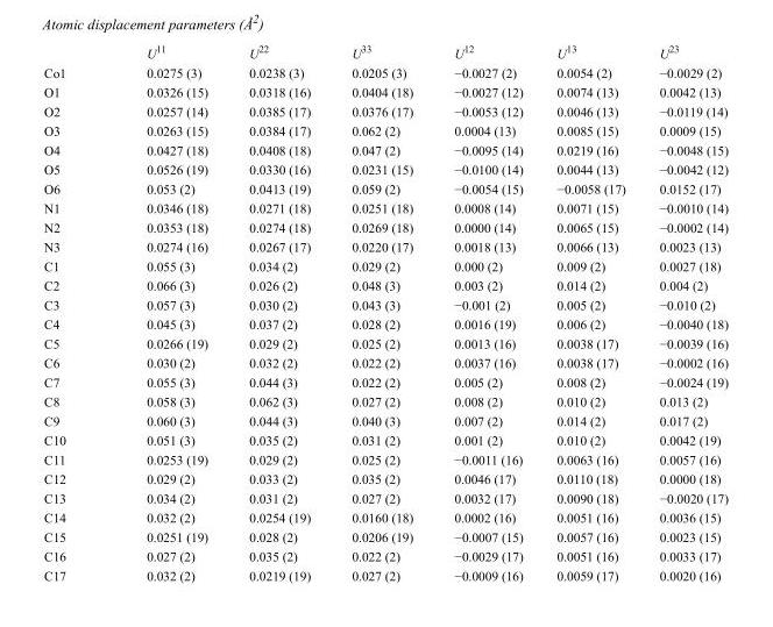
<table><thead><tr><td></td><td>U<sup>11</sup></td><td>U<sup>22</sup></td><td>U<sup>33</sup></td><td>U<sup>12</sup></td><td>U<sup>13</sup></td><td>U<sup>23</sup></td></tr></thead><tbody><tr><td>Co1</td><td>0.0275 (3)</td><td>0.0238 (3)</td><td>0.0205 (3)</td><td>−0.0027 (2)</td><td>0.0054 (2)</td><td>−0.0029 (2)</td></tr><tr><td>O1</td><td>0.0326 (15)</td><td>0.0318 (16)</td><td>0.0404 (18)</td><td>−0.0027 (12)</td><td>0.0074 (13)</td><td>0.0042 (13)</td></tr><tr><td>O2</td><td>0.0257 (14)</td><td>0.0385 (17)</td><td>0.0376 (17)</td><td>−0.0053 (12)</td><td>0.0046 (13)</td><td>−0.0119 (14)</td></tr><tr><td>O3</td><td>0.0263 (15)</td><td>0.0384 (17)</td><td>0.062 (2)</td><td>0.0004 (13)</td><td>0.0085 (15)</td><td>0.0009 (15)</td></tr><tr><td>O4</td><td>0.0427 (18)</td><td>0.0408 (18)</td><td>0.047 (2)</td><td>−0.0095 (14)</td><td>0.0219 (16)</td><td>−0.0048 (15)</td></tr><tr><td>O5</td><td>0.0526 (19)</td><td>0.0330 (16)</td><td>0.0231 (15)</td><td>−0.0100 (14)</td><td>0.0044 (13)</td><td>−0.0042 (12)</td></tr><tr><td>O6</td><td>0.053 (2)</td><td>0.0413 (19)</td><td>0.059 (2)</td><td>−0.0054 (15)</td><td>−0.0058 (17)</td><td>0.0152 (17)</td></tr><tr><td>N1</td><td>0.0346 (18)</td><td>0.0271 (18)</td><td>0.0251 (18)</td><td>0.0008 (14)</td><td>0.0071 (15)</td><td>−0.0010 (14)</td></tr><tr><td>N2</td><td>0.0353 (18)</td><td>0.0274 (18)</td><td>0.0269 (18)</td><td>0.0000 (14)</td><td>0.0065 (15)</td><td>−0.0002 (14)</td></tr><tr><td>N3</td><td>0.0274 (16)</td><td>0.0267 (17)</td><td>0.0220 (17)</td><td>0.0018 (13)</td><td>0.0066 (13)</td><td>0.0023 (13)</td></tr><tr><td>C1</td><td>0.055 (3)</td><td>0.034 (2)</td><td>0.029 (2)</td><td>0.000 (2)</td><td>0.009 (2)</td><td>0.0027 (18)</td></tr><tr><td>C2</td><td>0.066 (3)</td><td>0.026 (2)</td><td>0.048 (3)</td><td>0.003 (2)</td><td>0.014 (2)</td><td>0.004 (2)</td></tr><tr><td>C3</td><td>0.057 (3)</td><td>0.030 (2)</td><td>0.043 (3)</td><td>−0.001 (2)</td><td>0.005 (2)</td><td>−0.010 (2)</td></tr><tr><td>C4</td><td>0.045 (3)</td><td>0.037 (2)</td><td>0.028 (2)</td><td>0.0016 (19)</td><td>0.006 (2)</td><td>−0.0040 (18)</td></tr><tr><td>C5</td><td>0.0266 (19)</td><td>0.029 (2)</td><td>0.025 (2)</td><td>0.0013 (16)</td><td>0.0038 (17)</td><td>−0.0039 (16)</td></tr><tr><td>C6</td><td>0.030 (2)</td><td>0.032 (2)</td><td>0.022 (2)</td><td>0.0037 (16)</td><td>0.0038 (17)</td><td>−0.0002 (16)</td></tr><tr><td>C7</td><td>0.055 (3)</td><td>0.044 (3)</td><td>0.022 (2)</td><td>0.005 (2)</td><td>0.008 (2)</td><td>−0.0024 (19)</td></tr><tr><td>C8</td><td>0.058 (3)</td><td>0.062 (3)</td><td>0.027 (2)</td><td>0.008 (2)</td><td>0.010 (2)</td><td>0.013 (2)</td></tr><tr><td>C9</td><td>0.060 (3)</td><td>0.044 (3)</td><td>0.040 (3)</td><td>0.007 (2)</td><td>0.014 (2)</td><td>0.017 (2)</td></tr><tr><td>C10</td><td>0.051 (3)</td><td>0.035 (2)</td><td>0.031 (2)</td><td>0.001 (2)</td><td>0.010 (2)</td><td>0.0042 (19)</td></tr><tr><td>C11</td><td>0.0253 (19)</td><td>0.029 (2)</td><td>0.025 (2)</td><td>−0.0011 (16)</td><td>0.0063 (16)</td><td>0.0057 (16)</td></tr><tr><td>C12</td><td>0.029 (2)</td><td>0.033 (2)</td><td>0.035 (2)</td><td>0.0046 (17)</td><td>0.0110 (18)</td><td>0.0000 (18)</td></tr><tr><td>C13</td><td>0.034 (2)</td><td>0.031 (2)</td><td>0.027 (2)</td><td>0.0032 (17)</td><td>0.0090 (18)</td><td>−0.0020 (17)</td></tr><tr><td>C14</td><td>0.032 (2)</td><td>0.0254 (19)</td><td>0.0160 (18)</td><td>0.0002 (16)</td><td>0.0051 (16)</td><td>0.0036 (15)</td></tr><tr><td>C15</td><td>0.0251 (19)</td><td>0.028 (2)</td><td>0.0206 (19)</td><td>−0.0007 (15)</td><td>0.0057 (16)</td><td>0.0023 (15)</td></tr><tr><td>C16</td><td>0.027 (2)</td><td>0.035 (2)</td><td>0.022 (2)</td><td>−0.0029 (17)</td><td>0.0051 (16)</td><td>0.0033 (17)</td></tr><tr><td>C17</td><td>0.032 (2)</td><td>0.0219 (19)</td><td>0.027 (2)</td><td>−0.0009 (16)</td><td>0.0059 (17)</td><td>0.0020 (16)</td></tr></tbody></table>